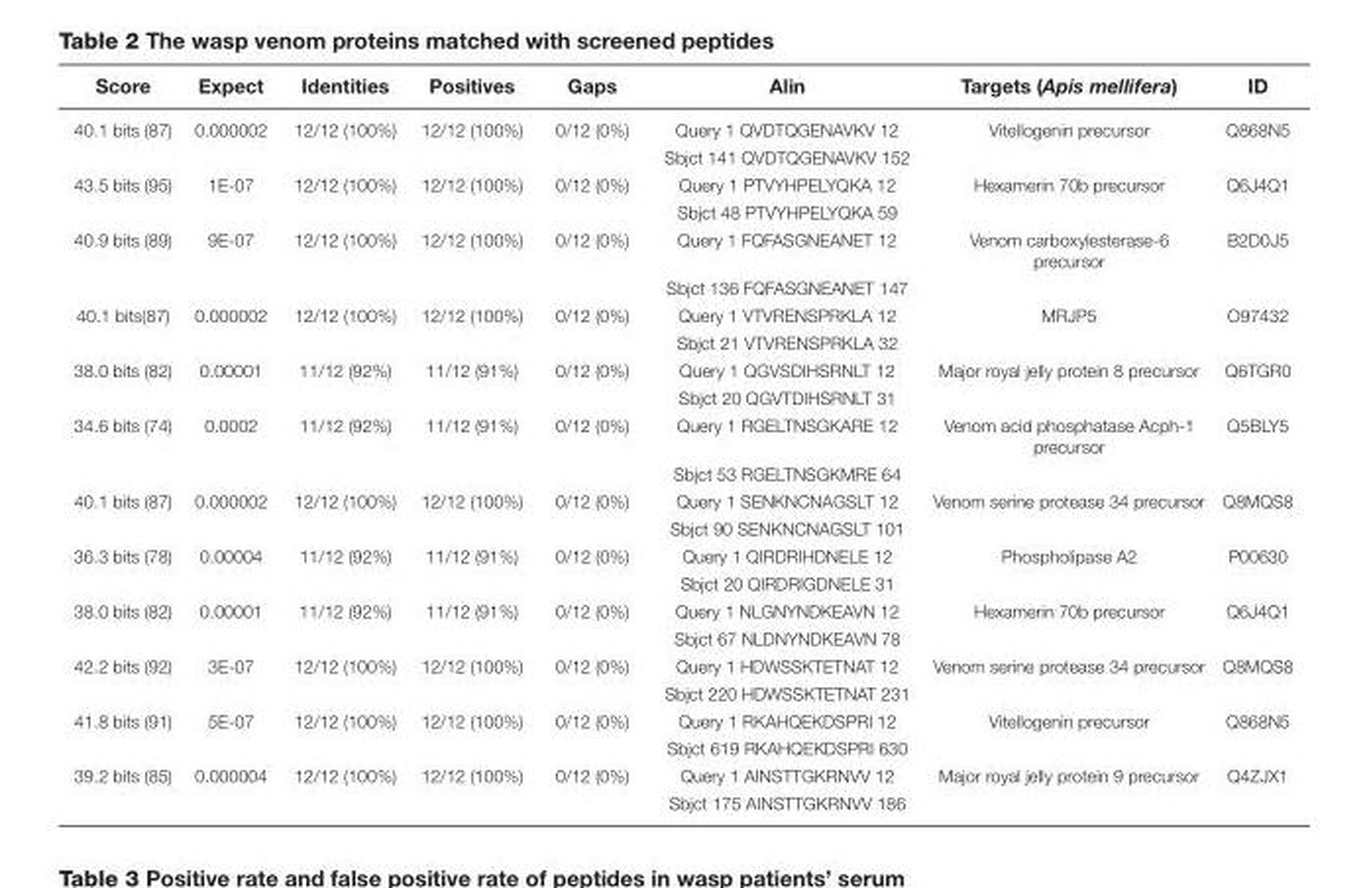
<table><thead><tr><td>Score</td><td>Expect</td><td>Identities</td><td>Positives</td><td>Gaps</td><td>Alin</td><td>Targets (Apis mellifera)</td><td>ID</td></tr></thead><tbody><tr><td rowspan="2">40.1 bits (87)</td><td>0.000002</td><td>12/12 (100%)</td><td>12/12 (100%)</td><td>0/12 (0%)</td><td>Query 1 QVDTQGENAVKV 12</td><td>Vitellogenin precursor</td><td>Q868N5</td></tr><tr><td></td><td></td><td></td><td></td><td>Sbjct 141 QVDTQGENAVKV 152</td><td></td><td></td></tr><tr><td rowspan="2">43.5 bits (95)</td><td>1E-07</td><td>12/12 (100%)</td><td>12/12 (100%)</td><td>0/12 (0%)</td><td>Query 1 PTVYHPELYQKA 12</td><td>Hexamerin 70b precursor</td><td>Q6J4Q1</td></tr><tr><td></td><td></td><td></td><td></td><td>Sbjct 48 PTVYHPELYQKA 59</td><td></td><td></td></tr><tr><td rowspan="2">40.9 bits (89)</td><td>9E-07</td><td>12/12 (100%)</td><td>12/12 (100%)</td><td>0/12 (0%)</td><td>Query 1 FQFASGNEANET 12</td><td>Venom carboxylesterase-6 precursor</td><td>B2D0J5</td></tr><tr><td></td><td></td><td></td><td></td><td>Sbjct 136 FQFASGNEANET 147</td><td></td><td></td></tr><tr><td rowspan="2">40.1 bits(87)</td><td>0.000002</td><td>12/12 (100%)</td><td>12/12 (100%)</td><td>0/12 (0%)</td><td>Query 1 VTVRENSPRKLA 12</td><td>MRJP5</td><td>O97432</td></tr><tr><td></td><td></td><td></td><td></td><td>Sbjct 21 VTVRENSPRKLA 32</td><td></td><td></td></tr><tr><td rowspan="2">38.0 bits (82)</td><td>0.00001</td><td>11/12 (92%)</td><td>11/12 (91%)</td><td>0/12 (0%)</td><td>Query 1 QGVSDIHSRNLT 12</td><td>Major royal jelly protein 8 precursor</td><td>Q6TGR0</td></tr><tr><td></td><td></td><td></td><td></td><td>Sbjct 20 QGVTDIHSRNLT 31</td><td></td><td></td></tr><tr><td rowspan="2">34.6 bits (74)</td><td>0.0002</td><td>11/12 (92%)</td><td>11/12 (91%)</td><td>0/12 (0%)</td><td>Query 1 RGELTNSGKARE 12</td><td>Venom acid phosphatase Acph-1 precursor</td><td>Q5BLY5</td></tr><tr><td></td><td></td><td></td><td></td><td>Sbjct 53 RGELTNSGKMRE 64</td><td></td><td></td></tr><tr><td rowspan="2">40.1 bits (87)</td><td>0.000002</td><td>12/12 (100%)</td><td>12/12 (100%)</td><td>0/12 (0%)</td><td>Query 1 SENKNCNAGSLT 12</td><td>Venom serine protease 34 precursor</td><td>Q8MQS8</td></tr><tr><td></td><td></td><td></td><td></td><td>Sbjct 90 SENKNCNAGSLT 101</td><td></td><td></td></tr><tr><td rowspan="2">36.3 bits (78)</td><td>0.00004</td><td>11/12 (92%)</td><td>11/12 (91%)</td><td>0/12 (0%)</td><td>Query 1 QIRDRIHDNELE 12</td><td>Phospholipase A2</td><td>P00630</td></tr><tr><td></td><td></td><td></td><td></td><td>Sbjct 20 QIRDRIGDNELE 31</td><td></td><td></td></tr><tr><td rowspan="2">38.0 bits (82)</td><td>0.00001</td><td>11/12 (92%)</td><td>11/12 (91%)</td><td>0/12 (0%)</td><td>Query 1 NLGNYNDKEAVN 12</td><td>Hexamerin 70b precursor</td><td>Q6J4Q1</td></tr><tr><td></td><td></td><td></td><td></td><td>Sbjct 67 NLDNYNDKEAVN 78</td><td></td><td></td></tr><tr><td rowspan="2">42.2 bits (92)</td><td>3E-07</td><td>12/12 (100%)</td><td>12/12 (100%)</td><td>0/12 (0%)</td><td>Query 1 HDWSSKTETNAT 12</td><td>Venom serine protease 34 precursor</td><td>Q8MQS8</td></tr><tr><td></td><td></td><td></td><td></td><td>Sbjct 220 HDWSSKTETNAT 231</td><td></td><td></td></tr><tr><td rowspan="2">41.8 bits (91)</td><td>5E-07</td><td>12/12 (100%)</td><td>12/12 (100%)</td><td>0/12 (0%)</td><td>Query 1 RKAHQEKDSPRI 12</td><td>Vitellogenin precursor</td><td>Q868N5</td></tr><tr><td></td><td></td><td></td><td></td><td>Sbjct 619 RKAHQEKDSPRI 630</td><td></td><td></td></tr><tr><td rowspan="2">39.2 bits (85)</td><td>0.000004</td><td>12/12 (100%)</td><td>12/12 (100%)</td><td>0/12 (0%)</td><td>Query 1 AINSTTGKRNVV 12</td><td>Major royal jelly protein 9 precursor</td><td>Q4ZJX1</td></tr><tr><td></td><td></td><td></td><td></td><td>Sbjct 175 AINSTTGKRNVV 186</td><td></td><td></td></tr></tbody></table>